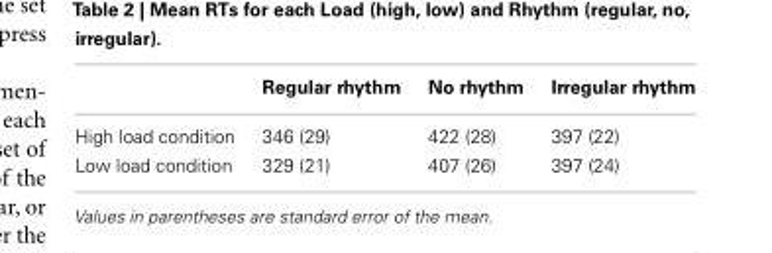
<table><thead><tr><td></td><td>Regular rhythm</td><td>No rhythm</td><td>Irregular rhythm</td></tr></thead><tbody><tr><td>High load condition</td><td>346 (29)</td><td>422 (28)</td><td>397 (22)</td></tr><tr><td>Low load condition</td><td>329 (21)</td><td>407 (26)</td><td>397 (24)</td></tr></tbody></table>